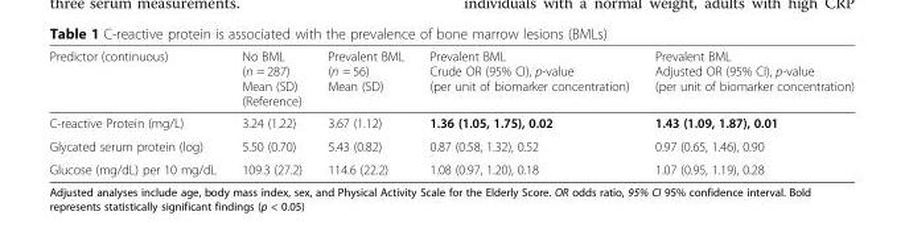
<table><thead><tr><td>Predictor (continuous)</td><td>No BML (n = 287) Mean (SD) (Reference)</td><td>Prevalent BML (n = 56) Mean (SD)</td><td>Prevalent BML Crude OR (95% CI), p-value (per unit of biomarker concentration)</td><td>Prevalent BML Adjusted OR (95% CI), p-value (per unit of biomarker concentration)</td></tr></thead><tbody><tr><td>C-reactive Protein (mg/L)</td><td>3.24 (1.22)</td><td>3.67 (1.12)</td><td>1.36 (1.05, 1.75), 0.02</td><td>1.43 (1.09, 1.87), 0.01</td></tr><tr><td>Glycated serum protein (log)</td><td>5.50 (0.70)</td><td>5.43 (0.82)</td><td>0.87 (0.58, 1.32), 0.52</td><td>0.97 (0.65, 1.46), 0.90</td></tr><tr><td>Glucose (mg/dL) per 10 mg/dL</td><td>109.3 (27.2)</td><td>114.6 (22.2)</td><td>1.08 (0.97, 1.20), 0.18</td><td>1.07 (0.95, 1.19), 0.28</td></tr></tbody></table>